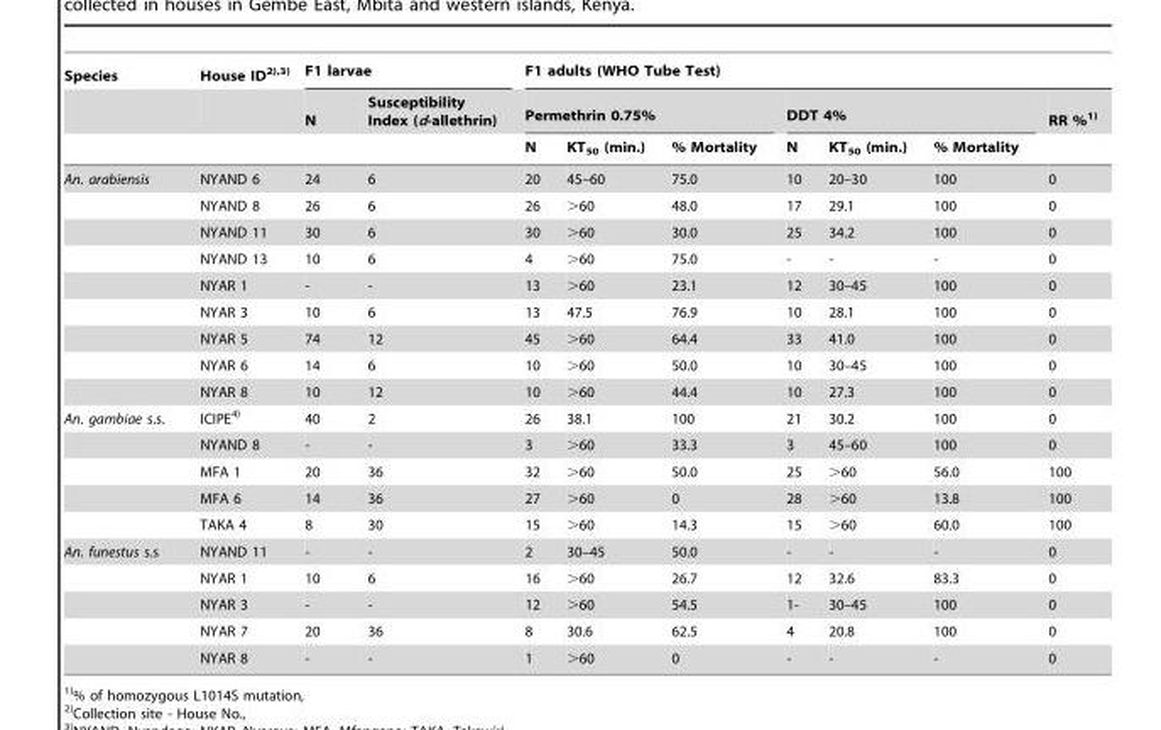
<table><thead><tr><td rowspan="3">Species</td><td rowspan="3">House ID2)<sup>,</sup>3)</td><td colspan="2">F1 larvae</td><td colspan="7">F1 adults (WHO Tube Test)</td></tr><tr><td rowspan="2">N</td><td rowspan="2">Susceptibility Index (d-allethrin)</td><td colspan="3">Permethrin 0.75%</td><td colspan="3">DDT 4%</td><td rowspan="2">RR %1)</td></tr><tr><td>N</td><td>KT<sub>50</sub> (min.)</td><td>% Mortality</td><td>N</td><td>KT<sub>50</sub> (min.)</td><td>% Mortality</td></tr></thead><tbody><tr><td rowspan="9">An. arabiensis</td><td>NYAND 6</td><td>24</td><td>6</td><td>20</td><td>45–60</td><td>75.0</td><td>10</td><td>20–30</td><td>100</td><td>0</td></tr><tr><td>NYAND 8</td><td>26</td><td>6</td><td>26</td><td>&gt;60</td><td>48.0</td><td>17</td><td>29.1</td><td>100</td><td>0</td></tr><tr><td>NYAND 11</td><td>30</td><td>6</td><td>30</td><td>&gt;60</td><td>30.0</td><td>25</td><td>34.2</td><td>100</td><td>0</td></tr><tr><td>NYAND 13</td><td>10</td><td>6</td><td>4</td><td>&gt;60</td><td>75.0</td><td>-</td><td>-</td><td>-</td><td>0</td></tr><tr><td>NYAR 1</td><td>-</td><td>-</td><td>13</td><td>&gt;60</td><td>23.1</td><td>12</td><td>30–45</td><td>100</td><td>0</td></tr><tr><td>NYAR 3</td><td>10</td><td>6</td><td>13</td><td>47.5</td><td>76.9</td><td>10</td><td>28.1</td><td>100</td><td>0</td></tr><tr><td>NYAR 5</td><td>74</td><td>12</td><td>45</td><td>&gt;60</td><td>64.4</td><td>33</td><td>41.0</td><td>100</td><td>0</td></tr><tr><td>NYAR 6</td><td>14</td><td>6</td><td>10</td><td>&gt;60</td><td>50.0</td><td>10</td><td>30–45</td><td>100</td><td>0</td></tr><tr><td>NYAR 8</td><td>10</td><td>12</td><td>10</td><td>&gt;60</td><td>44.4</td><td>10</td><td>27.3</td><td>100</td><td>0</td></tr><tr><td rowspan="5">An. gambiae s.s.</td><td>ICIPE4)</td><td>40</td><td>2</td><td>26</td><td>38.1</td><td>100</td><td>21</td><td>30.2</td><td>100</td><td>0</td></tr><tr><td>NYAND 8</td><td>-</td><td>-</td><td>3</td><td>&gt;60</td><td>33.3</td><td>3</td><td>45–60</td><td>100</td><td>0</td></tr><tr><td>MFA 1</td><td>20</td><td>36</td><td>32</td><td>&gt;60</td><td>50.0</td><td>25</td><td>&gt;60</td><td>56.0</td><td>100</td></tr><tr><td>MFA 6</td><td>14</td><td>36</td><td>27</td><td>&gt;60</td><td>0</td><td>28</td><td>&gt;60</td><td>13.8</td><td>100</td></tr><tr><td>TAKA 4</td><td>8</td><td>30</td><td>15</td><td>&gt;60</td><td>14.3</td><td>15</td><td>&gt;60</td><td>60.0</td><td>100</td></tr><tr><td rowspan="5">An. funestus s.s</td><td>NYAND 11</td><td>-</td><td>-</td><td>2</td><td>30–45</td><td>50.0</td><td>-</td><td>-</td><td>-</td><td>0</td></tr><tr><td>NYAR 1</td><td>10</td><td>6</td><td>16</td><td>&gt;60</td><td>26.7</td><td>12</td><td>32.6</td><td>83.3</td><td>0</td></tr><tr><td>NYAR 3</td><td>-</td><td>-</td><td>12</td><td>&gt;60</td><td>54.5</td><td>1-</td><td>30–45</td><td>100</td><td>0</td></tr><tr><td>NYAR 7</td><td>20</td><td>36</td><td>8</td><td>30.6</td><td>62.5</td><td>4</td><td>20.8</td><td>100</td><td>0</td></tr><tr><td>NYAR 8</td><td>-</td><td>-</td><td>1</td><td>&gt;60</td><td>0</td><td>-</td><td>-</td><td>-</td><td>0</td></tr></tbody></table>